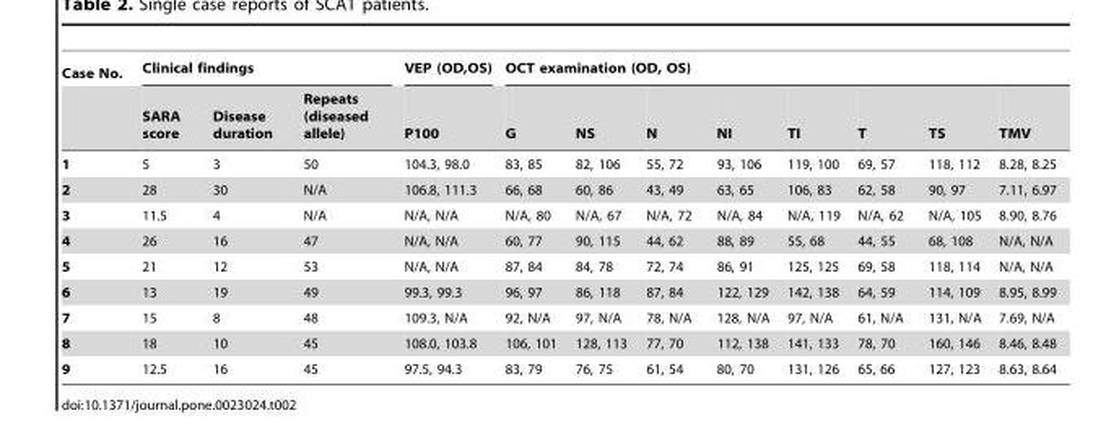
<table><thead><tr><td rowspan="2">Case No.</td><td colspan="3">Clinical findings</td><td rowspan="2">VEP (OD,OS) P100</td><td colspan="8">OCT examination (OD, OS)</td></tr><tr><td>SARA score</td><td>Disease duration</td><td>Repeats (diseased allele)</td><td>G</td><td>NS</td><td>N</td><td>NI</td><td>TI</td><td>T</td><td>TS</td><td>TMV</td></tr></thead><tbody><tr><td>1</td><td>5</td><td>3</td><td>50</td><td>104.3, 98.0</td><td>83, 85</td><td>82, 106</td><td>55, 72</td><td>93, 106</td><td>119, 100</td><td>69, 57</td><td>118, 112</td><td>8.28, 8.25</td></tr><tr><td>2</td><td>28</td><td>30</td><td>N/A</td><td>106.8, 111.3</td><td>66, 68</td><td>60, 86</td><td>43, 49</td><td>63, 65</td><td>106, 83</td><td>62, 58</td><td>90, 97</td><td>7.11, 6.97</td></tr><tr><td>3</td><td>11.5</td><td>4</td><td>N/A</td><td>N/A, N/A</td><td>N/A, 80</td><td>N/A, 67</td><td>N/A, 72</td><td>N/A, 84</td><td>N/A, 119</td><td>N/A, 62</td><td>N/A, 105</td><td>8.90, 8.76</td></tr><tr><td>4</td><td>26</td><td>16</td><td>47</td><td>N/A, N/A</td><td>60, 77</td><td>90, 115</td><td>44, 62</td><td>88, 89</td><td>55, 68</td><td>44, 55</td><td>68, 108</td><td>N/A, N/A</td></tr><tr><td>5</td><td>21</td><td>12</td><td>53</td><td>N/A, N/A</td><td>87, 84</td><td>84, 78</td><td>72, 74</td><td>86, 91</td><td>125, 125</td><td>69, 58</td><td>118, 114</td><td>N/A, N/A</td></tr><tr><td>6</td><td>13</td><td>19</td><td>49</td><td>99.3, 99.3</td><td>96, 97</td><td>86, 118</td><td>87, 84</td><td>122, 129</td><td>142, 138</td><td>64, 59</td><td>114, 109</td><td>8.95, 8.99</td></tr><tr><td>7</td><td>15</td><td>8</td><td>48</td><td>109.3, N/A</td><td>92, N/A</td><td>97, N/A</td><td>78, N/A</td><td>128, N/A</td><td>97, N/A</td><td>61, N/A</td><td>131, N/A</td><td>7.69, N/A</td></tr><tr><td>8</td><td>18</td><td>10</td><td>45</td><td>108.0, 103.8</td><td>106, 101</td><td>128, 113</td><td>77, 70</td><td>112, 138</td><td>141, 133</td><td>78, 70</td><td>160, 146</td><td>8.46, 8.48</td></tr><tr><td>9</td><td>12.5</td><td>16</td><td>45</td><td>97.5, 94.3</td><td>83, 79</td><td>76, 75</td><td>61, 54</td><td>80, 70</td><td>131, 126</td><td>65, 66</td><td>127, 123</td><td>8.63, 8.64</td></tr></tbody></table>